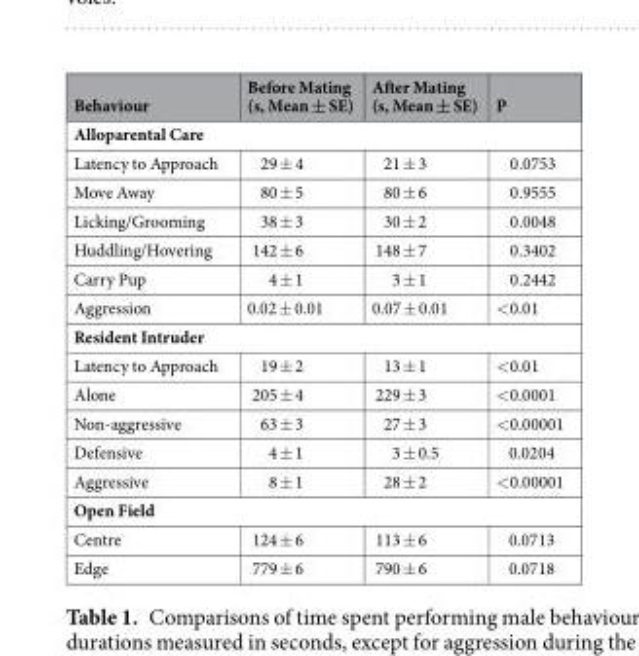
<table><thead><tr><td>Behaviour</td><td>Before Mating (s, Mean ± SE)</td><td>After Mating (s, Mean ± SE)</td><td>P</td></tr></thead><tbody><tr><td colspan="4">Alloparental Care</td></tr><tr><td>Latency to Approach</td><td>29 ± 4</td><td>21 ± 3</td><td>0.0753</td></tr><tr><td>Move Away</td><td>80 ± 5</td><td>80 ± 6</td><td>0.9555</td></tr><tr><td>Licking/Grooming</td><td>38 ± 3</td><td>30 ± 2</td><td>0.0048</td></tr><tr><td>Huddling/Hovering</td><td>142 ± 6</td><td>148 ± 7</td><td>0.3402</td></tr><tr><td>Carry Pup</td><td>4 ± 1</td><td>3 ± 1</td><td>0.2442</td></tr><tr><td>Aggression</td><td>0.02 ± 0.01</td><td>0.07 ± 0.01</td><td>&lt;0.01</td></tr><tr><td colspan="4">Resident Intruder</td></tr><tr><td>Latency to Approach</td><td>19 ± 2</td><td>13 ± 1</td><td>&lt;0.01</td></tr><tr><td>Alone</td><td>205 ± 4</td><td>229 ± 3</td><td>&lt;0.0001</td></tr><tr><td>Non-aggressive</td><td>63 ± 3</td><td>27 ± 3</td><td>&lt;0.00001</td></tr><tr><td>Defensive</td><td>4 ± 1</td><td>3 ± 0.5</td><td>0.0204</td></tr><tr><td>Aggressive</td><td>8 ± 1</td><td>28 ± 2</td><td>&lt;0.00001</td></tr><tr><td colspan="4">Open Field</td></tr><tr><td>Centre</td><td>124 ± 6</td><td>113 ± 6</td><td>0.0713</td></tr><tr><td>Edge</td><td>779 ± 6</td><td>790 ± 6</td><td>0.0718</td></tr></tbody></table>